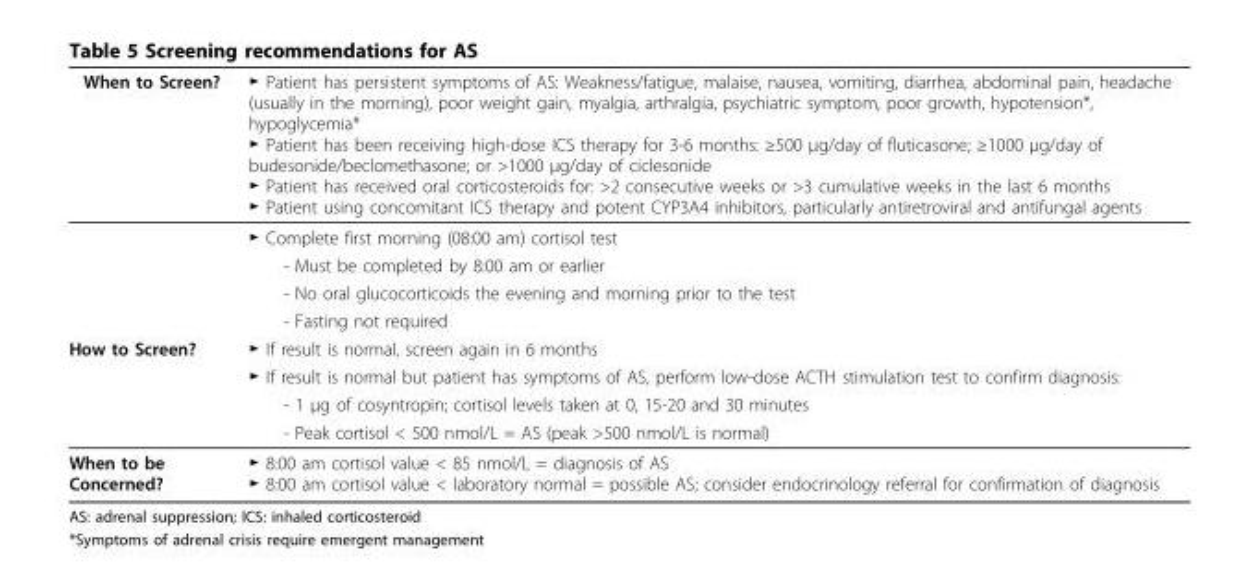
<table><thead><tr><td>When to Screen?</td><td>► Patient has persistent symptoms of AS: Weakness/fatigue, malaise, nausea, vomiting, diarrhea, abdominal pain, headache (usually in the morning), poor weight gain, myalgia, arthralgia, psychiatric symptom, poor growth, hypotension*, hypoglycemia* ► Patient has been receiving high-dose ICS therapy for 3-6 months: ≥500 μg/day of fluticasone; ≥1000 μg/day of budesonide/beclomethasone; or &gt;1000 μg/day of ciclesonide ► Patient has received oral corticosteroids for: &gt;2 consecutive weeks or &gt;3 cumulative weeks in the last 6 months ► Patient using concomitant ICS therapy and potent CYP3A4 inhibitors, particularly antiretroviral and antifungal agents</td></tr></thead><tbody><tr><td></td><td>► Complete first morning (08:00 am) cortisol test</td></tr><tr><td></td><td>- Must be completed by 8:00 am or earlier</td></tr><tr><td></td><td>- No oral glucocorticoids the evening and morning prior to the test</td></tr><tr><td></td><td>- Fasting not required</td></tr><tr><td rowspan="4">How to Screen?</td><td>► If result is normal, screen again in 6 months</td></tr><tr><td>► If result is normal but patient has symptoms of AS, perform low-dose ACTH stimulation test to confirm diagnosis:</td></tr><tr><td>- 1 μg of cosyntropin; cortisol levels taken at 0, 15-20 and 30 minutes</td></tr><tr><td>- Peak cortisol &lt; 500 nmol/L = AS (peak &gt;500 nmol/L is normal)</td></tr><tr><td>When to be Concerned?</td><td>► 8:00 am cortisol value &lt; 85 nmol/L = diagnosis of AS ► 8:00 am cortisol value &lt; laboratory normal = possible AS; consider endocrinology referral for confirmation of diagnosis</td></tr></tbody></table>